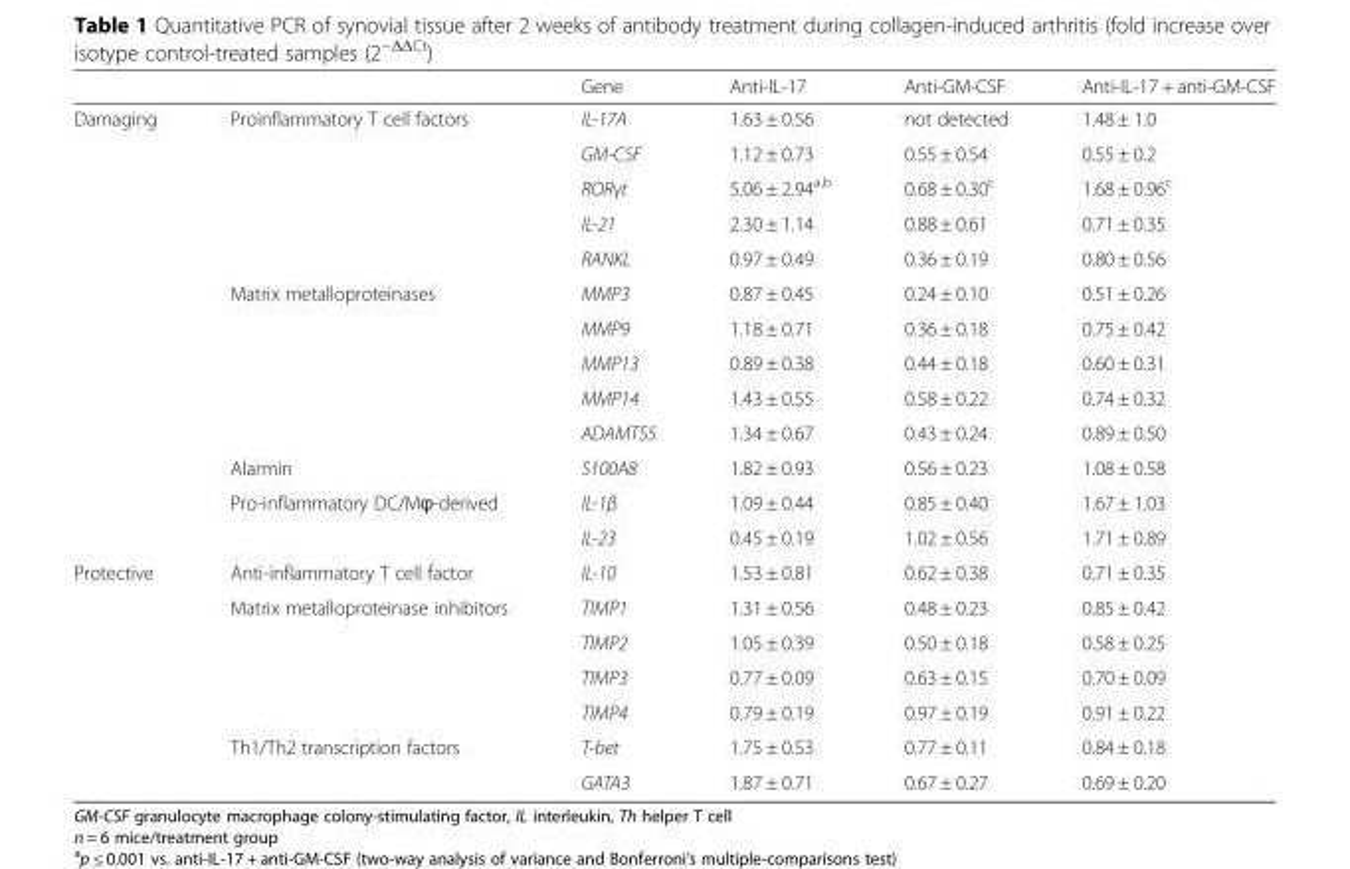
<table><thead><tr><td></td><td></td><td>Gene</td><td>Anti-IL-17</td><td>Anti-GM-CSF</td><td>Anti-IL-17 + anti-GM-CSF</td></tr></thead><tbody><tr><td rowspan="13">Damaging</td><td rowspan="5">Proinflammatory T cell factors</td><td>IL-17A</td><td>1.63 ± 0.56</td><td>not detected</td><td>1.48 ± 1.0</td></tr><tr><td>GM-CSF</td><td>1.12 ± 0.73</td><td>0.55 ± 0.54</td><td>0.55 ± 0.2</td></tr><tr><td>RORγt</td><td>5.06 ± 2.94<sup>a,b</sup></td><td>0.68 ± 0.30<sup>c</sup></td><td>1.68 ± 0.96<sup>c</sup></td></tr><tr><td>IL-21</td><td>2.30 ± 1.14</td><td>0.88 ± 0.61</td><td>0.71 ± 0.35</td></tr><tr><td>RANKL</td><td>0.97 ± 0.49</td><td>0.36 ± 0.19</td><td>0.80 ± 0.56</td></tr><tr><td rowspan="5">Matrix metalloproteinases</td><td>MMP3</td><td>0.87 ± 0.45</td><td>0.24 ± 0.10</td><td>0.51 ± 0.26</td></tr><tr><td>MMP9</td><td>1.18 ± 0.71</td><td>0.36 ± 0.18</td><td>0.75 ± 0.42</td></tr><tr><td>MMP13</td><td>0.89 ± 0.38</td><td>0.44 ± 0.18</td><td>0.60 ± 0.31</td></tr><tr><td>MMP14</td><td>1.43 ± 0.55</td><td>0.58 ± 0.22</td><td>0.74 ± 0.32</td></tr><tr><td>ADAMTS5</td><td>1.34 ± 0.67</td><td>0.43 ± 0.24</td><td>0.89 ± 0.50</td></tr><tr><td>Alarmin</td><td>S100A8</td><td>1.82 ± 0.93</td><td>0.56 ± 0.23</td><td>1.08 ± 0.58</td></tr><tr><td rowspan="2">Pro-inflammatory DC/Mϕ-derived</td><td>IL-1β</td><td>1.09 ± 0.44</td><td>0.85 ± 0.40</td><td>1.67 ± 1.03</td></tr><tr><td>IL-23</td><td>0.45 ± 0.19</td><td>1.02 ± 0.56</td><td>1.71 ± 0.89</td></tr><tr><td rowspan="7">Protective</td><td>Anti-inflammatory T cell factor</td><td>IL-10</td><td>1.53 ± 0.81</td><td>0.62 ± 0.38</td><td>0.71 ± 0.35</td></tr><tr><td rowspan="4">Matrix metalloproteinase inhibitors</td><td>TIMP1</td><td>1.31 ± 0.56</td><td>0.48 ± 0.23</td><td>0.85 ± 0.42</td></tr><tr><td>TIMP2</td><td>1.05 ± 0.39</td><td>0.50 ± 0.18</td><td>0.58 ± 0.25</td></tr><tr><td>TIMP3</td><td>0.77 ± 0.09</td><td>0.63 ± 0.15</td><td>0.70 ± 0.09</td></tr><tr><td>TIMP4</td><td>0.79 ± 0.19</td><td>0.97 ± 0.19</td><td>0.91 ± 0.22</td></tr><tr><td rowspan="2">Th1/Th2 transcription factors</td><td>T-bet</td><td>1.75 ± 0.53</td><td>0.77 ± 0.11</td><td>0.84 ± 0.18</td></tr><tr><td>GATA3</td><td>1.87 ± 0.71</td><td>0.67 ± 0.27</td><td>0.69 ± 0.20</td></tr></tbody></table>